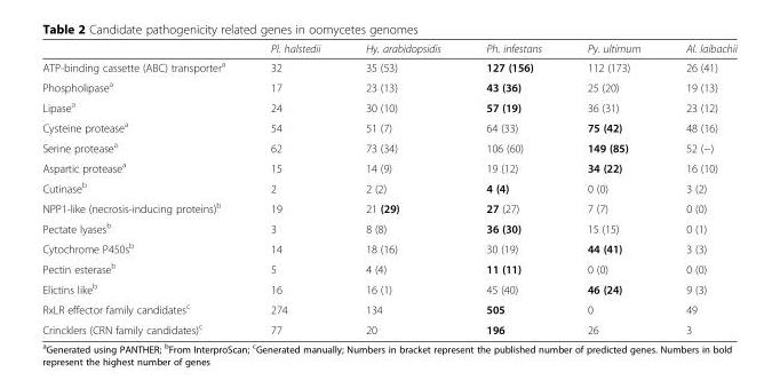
<table><thead><tr><td></td><td>Pl. halstedii</td><td>Hy. arabidopsidis</td><td>Ph. infestans</td><td>Py. ultimum</td><td>Al. laibachii</td></tr></thead><tbody><tr><td>ATP-binding cassette (ABC) transporter<sup>a</sup></td><td>32</td><td>35 (53)</td><td>127 (156)</td><td>112 (173)</td><td>26 (41)</td></tr><tr><td>Phospholipase<sup>a</sup></td><td>17</td><td>23 (13)</td><td>43 (36)</td><td>25 (20)</td><td>19 (13)</td></tr><tr><td>Lipase<sup>a</sup></td><td>24</td><td>30 (10)</td><td>57 (19)</td><td>36 (31)</td><td>23 (12)</td></tr><tr><td>Cysteine protease<sup>a</sup></td><td>54</td><td>51 (7)</td><td>64 (33)</td><td>75 (42)</td><td>48 (16)</td></tr><tr><td>Serine protease<sup>a</sup></td><td>62</td><td>73 (34)</td><td>106 (60)</td><td>149 (85)</td><td>52 (−)</td></tr><tr><td>Aspartic protease<sup>a</sup></td><td>15</td><td>14 (9)</td><td>19 (12)</td><td>34 (22)</td><td>16 (10)</td></tr><tr><td>Cutinase<sup>b</sup></td><td>2</td><td>2 (2)</td><td>4 (4)</td><td>0 (0)</td><td>3 (2)</td></tr><tr><td>NPP1-like (necrosis-inducing proteins)<sup>b</sup></td><td>19</td><td>21 (29)</td><td>27 (27)</td><td>7 (7)</td><td>0 (0)</td></tr><tr><td>Pectate lyases<sup>b</sup></td><td>3</td><td>8 (8)</td><td>36 (30)</td><td>15 (15)</td><td>0 (1)</td></tr><tr><td>Cytochrome P450s<sup>b</sup></td><td>14</td><td>18 (16)</td><td>30 (19)</td><td>44 (41)</td><td>3 (3)</td></tr><tr><td>Pectin esterase<sup>b</sup></td><td>5</td><td>4 (4)</td><td>11 (11)</td><td>0 (0)</td><td>0 (0)</td></tr><tr><td>Elictins like<sup>b</sup></td><td>16</td><td>16 (1)</td><td>45 (40)</td><td>46 (24)</td><td>9 (3)</td></tr><tr><td>RxLR effector family candidates<sup>c</sup></td><td>274</td><td>134</td><td>505</td><td>0</td><td>49</td></tr><tr><td>Crincklers (CRN family candidates)<sup>c</sup></td><td>77</td><td>20</td><td>196</td><td>26</td><td>3</td></tr></tbody></table>